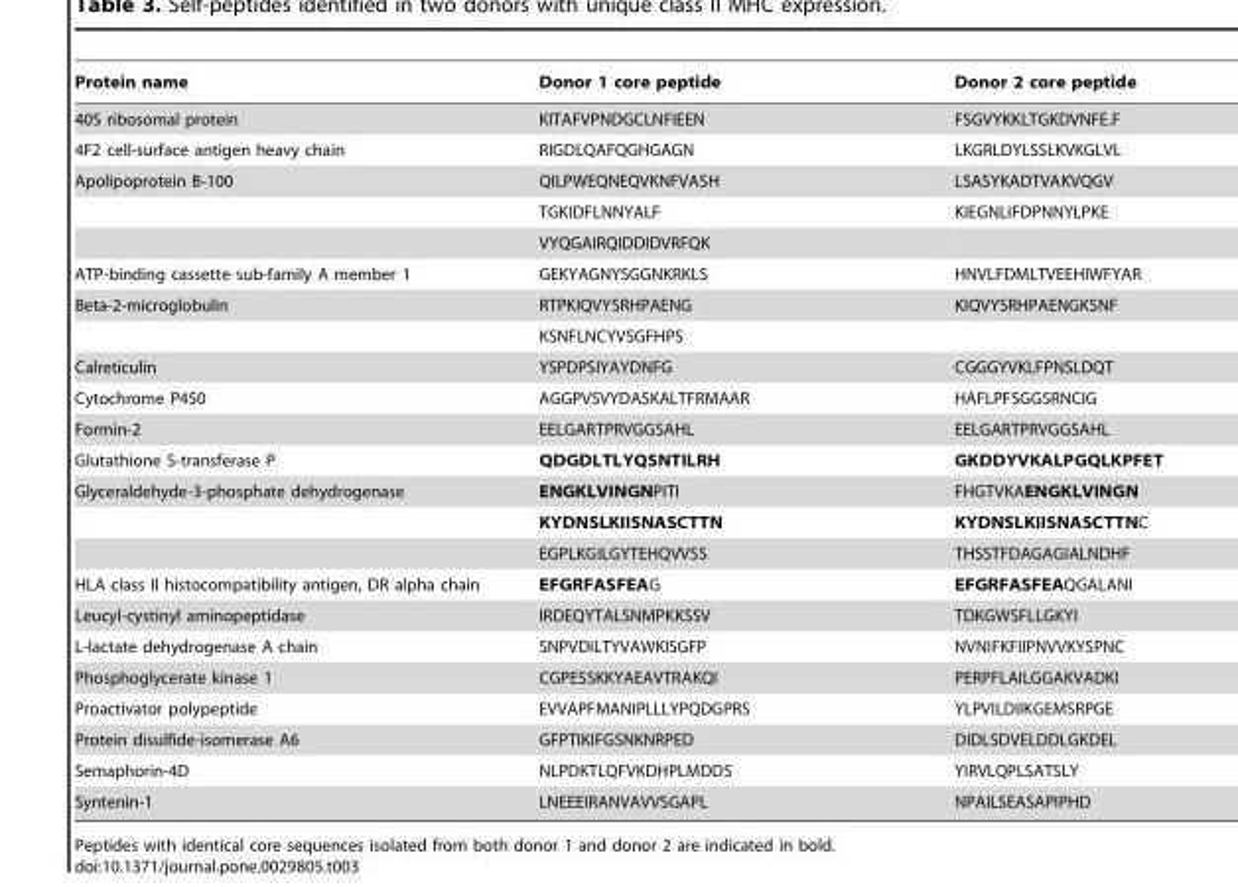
<table><thead><tr><td>Protein name</td><td>Donor 1 core peptide</td><td>Donor 2 core peptide</td></tr></thead><tbody><tr><td>40S ribosomal protein</td><td>KITAFVPNDGCLNFIEEN</td><td>FSGVYKKLTGKDVNFE.F</td></tr><tr><td>4F2 cell-surface antigen heavy chain</td><td>RIGDLQAFQGHGAGN</td><td>LKGRLDYLSSLKVKGLVL</td></tr><tr><td rowspan="3">Apolipoprotein B-100</td><td>QILPWEQNEQVKNFVASH</td><td>LSASYKADTVAKVQGV</td></tr><tr><td>TGKIDFLNNYALF</td><td>KIEGNLIFDPNNYLPKE</td></tr><tr><td>VYQGAIRQIDDIDVRFQK</td><td></td></tr><tr><td>ATP-binding cassette sub-family A member 1</td><td>GEKYAGNYSGGNKRKLS</td><td>HNVLFDMLTVEEHIWFYAR</td></tr><tr><td rowspan="2">Beta-2-microglobulin</td><td>RTPKIQVYSRHPAENG</td><td>KIQVYSRHPAENGKSNF</td></tr><tr><td>KSNFLNCYVSGFHPS</td><td></td></tr><tr><td>Calreticulin</td><td>YSPDPSIYAYDNFG</td><td>CGGGYVKLFPNSLDQT</td></tr><tr><td>Cytochrome P450</td><td>AGGPVSVYDASKALTFRMAAR</td><td>HAFLPFSGGSRNCIG</td></tr><tr><td>Formin-2</td><td>EELGARTPRVGGSAHL</td><td>EELGARTPRVGGSAHL</td></tr><tr><td>Glutathione S-transferase P</td><td>QDGDLTLYQSNTILRH</td><td>GKDDYVKALPGQLKPFET</td></tr><tr><td rowspan="3">Glyceraldehyde-3-phosphate dehydrogenase</td><td>ENGKLVINGNPITI</td><td>FHGTVKAENGKLVINGN</td></tr><tr><td>KYDNSLKIISNASCTTN</td><td>KYDNSLKIISNASCTTNC</td></tr><tr><td>EGPLKGILGYTEHQVVSS</td><td>THSSTFDAGAGIALNDHF</td></tr><tr><td>HLA class II histocompatibility antigen, DR alpha chain</td><td>EFGRFASFEAG</td><td>EFGRFASFEAQGALANI</td></tr><tr><td>Leucyl-cystinyl aminopeptidase</td><td>IRDEQYTALSNMPKKSSV</td><td>TDKGWSFLLGKYI</td></tr><tr><td>L-lactate dehydrogenase A chain</td><td>SNPVDILTYVAWKISGFP</td><td>NVNIFKFIIPNVVKYSPNC</td></tr><tr><td>Phosphoglycerate kinase 1</td><td>CGPESSKKYAEAVTRAKQI</td><td>PERPFLAILGGAKVADKI</td></tr><tr><td>Proactivator polypeptide</td><td>EVVAPFMANIPLLLYPQDGPRS</td><td>YLPVILDIIKGEMSRPGE</td></tr><tr><td>Protein disulfide-isomerase A6</td><td>GFPTIKIFGSNKNRPED</td><td>DIDLSDVELDDLGKDEL</td></tr><tr><td>Semaphorin-4D</td><td>NLPDKTLQFVKDHPLMDDS</td><td>YIRVLQPLSATSLY</td></tr><tr><td>Syntenin-1</td><td>LNEEEIRANVAVVSGAPL</td><td>NPAILSEASAPIPHD</td></tr></tbody></table>